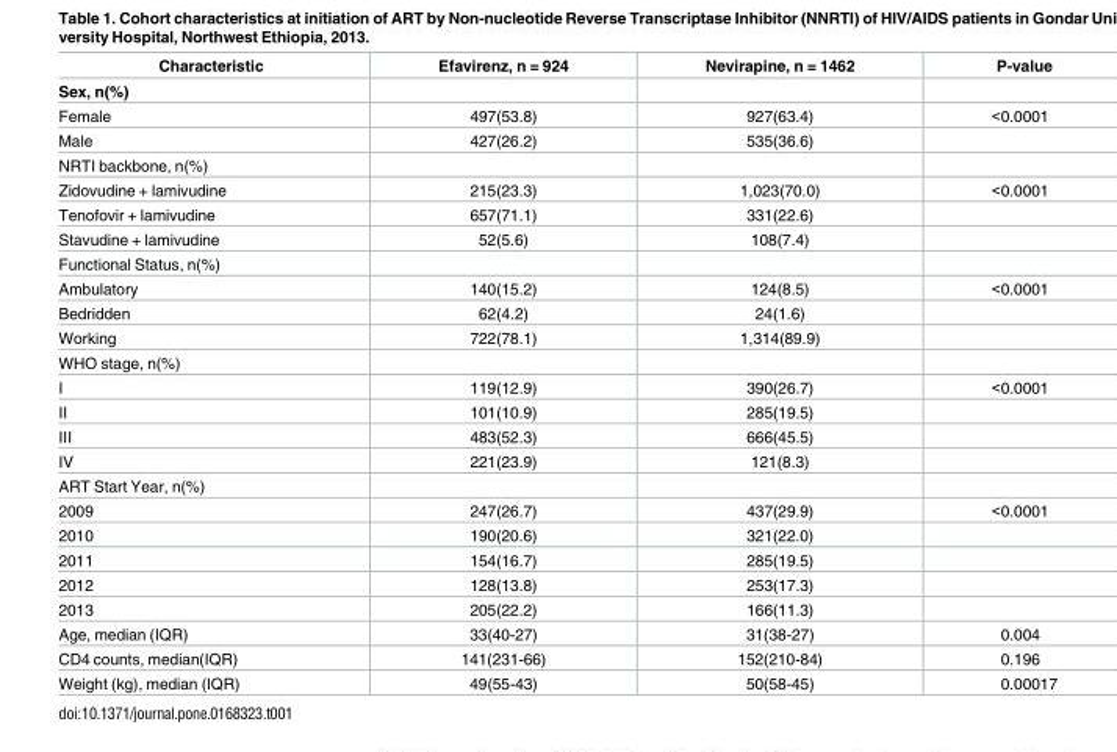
<table><thead><tr><td>Characteristic</td><td>Efavirenz, n = 924</td><td>Nevirapine, n = 1462</td><td>P-value</td></tr></thead><tbody><tr><td colspan="4">Sex, n(%)</td></tr><tr><td>Female</td><td>497(53.8)</td><td>927(63.4)</td><td>&lt;0.0001</td></tr><tr><td>Male</td><td>427(26.2)</td><td>535(36.6)</td><td></td></tr><tr><td colspan="4">NRTI backbone, n(%)</td></tr><tr><td>Zidovudine + lamivudine</td><td>215(23.3)</td><td>1,023(70.0)</td><td>&lt;0.0001</td></tr><tr><td>Tenofovir + lamivudine</td><td>657(71.1)</td><td>331(22.6)</td><td></td></tr><tr><td>Stavudine + lamivudine</td><td>52(5.6)</td><td>108(7.4)</td><td></td></tr><tr><td colspan="4">Functional Status, n(%)</td></tr><tr><td>Ambulatory</td><td>140(15.2)</td><td>124(8.5)</td><td>&lt;0.0001</td></tr><tr><td>Bedridden</td><td>62(4.2)</td><td>24(1.6)</td><td></td></tr><tr><td>Working</td><td>722(78.1)</td><td>1,314(89.9)</td><td></td></tr><tr><td colspan="4">WHO stage, n(%)</td></tr><tr><td>I</td><td>119(12.9)</td><td>390(26.7)</td><td>&lt;0.0001</td></tr><tr><td>II</td><td>101(10.9)</td><td>285(19.5)</td><td></td></tr><tr><td>III</td><td>483(52.3)</td><td>666(45.5)</td><td></td></tr><tr><td>IV</td><td>221(23.9)</td><td>121(8.3)</td><td></td></tr><tr><td colspan="4">ART Start Year, n(%)</td></tr><tr><td>2009</td><td>247(26.7)</td><td>437(29.9)</td><td>&lt;0.0001</td></tr><tr><td>2010</td><td>190(20.6)</td><td>321(22.0)</td><td></td></tr><tr><td>2011</td><td>154(16.7)</td><td>285(19.5)</td><td></td></tr><tr><td>2012</td><td>128(13.8)</td><td>253(17.3)</td><td></td></tr><tr><td>2013</td><td>205(22.2)</td><td>166(11.3)</td><td></td></tr><tr><td>Age, median (IQR)</td><td>33(40-27)</td><td>31(38-27)</td><td>0.004</td></tr><tr><td>CD4 counts, median(IQR)</td><td>141(231-66)</td><td>152(210-84)</td><td>0.196</td></tr><tr><td>Weight (kg), median (IQR)</td><td>49(55-43)</td><td>50(58-45)</td><td>0.00017</td></tr></tbody></table>